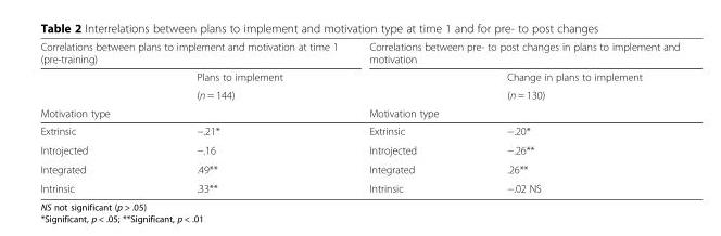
<table><thead><tr><td colspan="2">Correlations between plans to implement and motivation at time 1 (pre-training)</td><td colspan="2">Correlations between pre- to post changes in plans to implement and motivation</td></tr><tr><td rowspan="3">Motivation type</td><td rowspan="3">Plans to implement (n = 144)</td><td rowspan="3">Motivation type</td><td rowspan="3">Change in plans to implement (n = 130)</td></tr><tr></tr><tr></tr></thead><tbody><tr><td>Extrinsic</td><td>−.21*</td><td>Extrinsic</td><td>−.20*</td></tr><tr><td>Introjected</td><td>−.16</td><td>Introjected</td><td>−.26**</td></tr><tr><td>Integrated</td><td>.49**</td><td>Integrated</td><td>.26**</td></tr><tr><td>Intrinsic</td><td>.33**</td><td>Intrinsic</td><td>−.02 NS</td></tr></tbody></table>